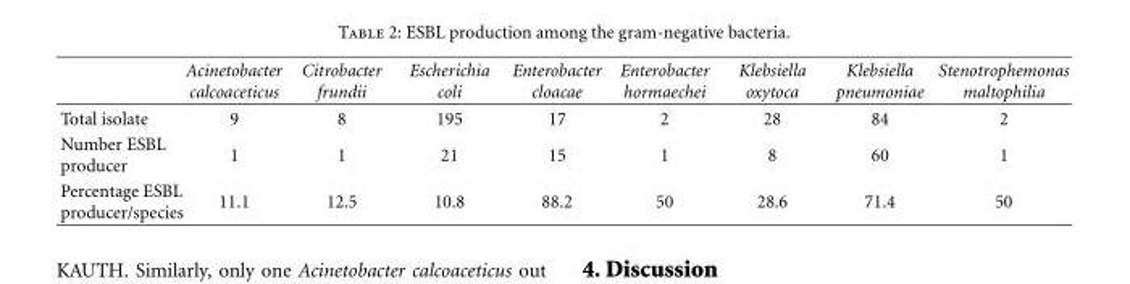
<table><thead><tr><td></td><td>Acinetobacter calcoaceticus</td><td>Citrobacter frundii</td><td>Escherichia coli</td><td>Enterobacter cloacae</td><td>Enterobacter hormaechei</td><td>Klebsiella oxytoca</td><td>Klebsiella pneumoniae</td><td>Stenotrophemonas maltophilia</td></tr></thead><tbody><tr><td>Total isolate</td><td>9</td><td>8</td><td>195</td><td>17</td><td>2</td><td>28</td><td>84</td><td>2</td></tr><tr><td>Number ESBL producer</td><td>1</td><td>1</td><td>21</td><td>15</td><td>1</td><td>8</td><td>60</td><td>1</td></tr><tr><td>Percentage ESBL producer/species</td><td>11.1</td><td>12.5</td><td>10.8</td><td>88.2</td><td>50</td><td>28.6</td><td>71.4</td><td>50</td></tr></tbody></table>